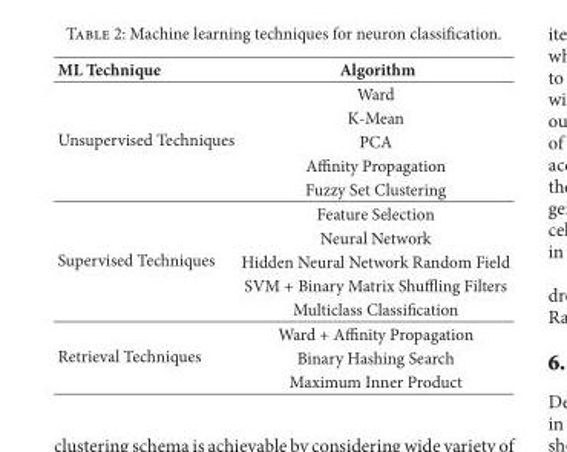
<table><thead><tr><td>ML Technique</td><td>Algorithm</td></tr></thead><tbody><tr><td rowspan="5">Unsupervised Techniques</td><td>Ward</td></tr><tr><td>K-Mean</td></tr><tr><td>PCA</td></tr><tr><td>Affinity Propagation</td></tr><tr><td>Fuzzy Set Clustering</td></tr><tr><td rowspan="5">Supervised Techniques</td><td>Feature Selection</td></tr><tr><td>Neural Network</td></tr><tr><td>Hidden Neural Network Random Field</td></tr><tr><td>SVM + Binary Matrix Shuffling Filters</td></tr><tr><td>Multiclass Classification</td></tr><tr><td rowspan="3">Retrieval Techniques</td><td>Ward + Affinity Propagation</td></tr><tr><td>Binary Hashing Search</td></tr><tr><td>Maximum Inner Product</td></tr></tbody></table>